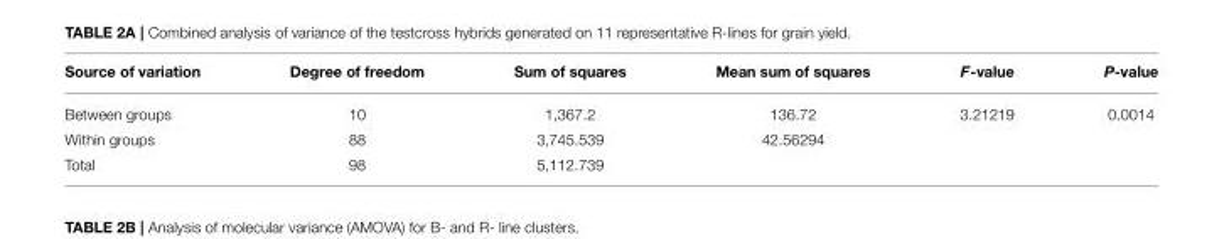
<table><thead><tr><td>Source of variation</td><td>Degree of freedom</td><td>Sum of squares</td><td>Mean sum of squares</td><td>F-value</td><td>P-value</td></tr></thead><tbody><tr><td>Between groups</td><td>10</td><td>1,367.2</td><td>136.72</td><td>3.21219</td><td>0.0014</td></tr><tr><td>Within groups</td><td>88</td><td>3,745.539</td><td>42.56294</td><td></td><td></td></tr><tr><td>Total</td><td>98</td><td>5,112.739</td><td></td><td></td><td></td></tr></tbody></table>